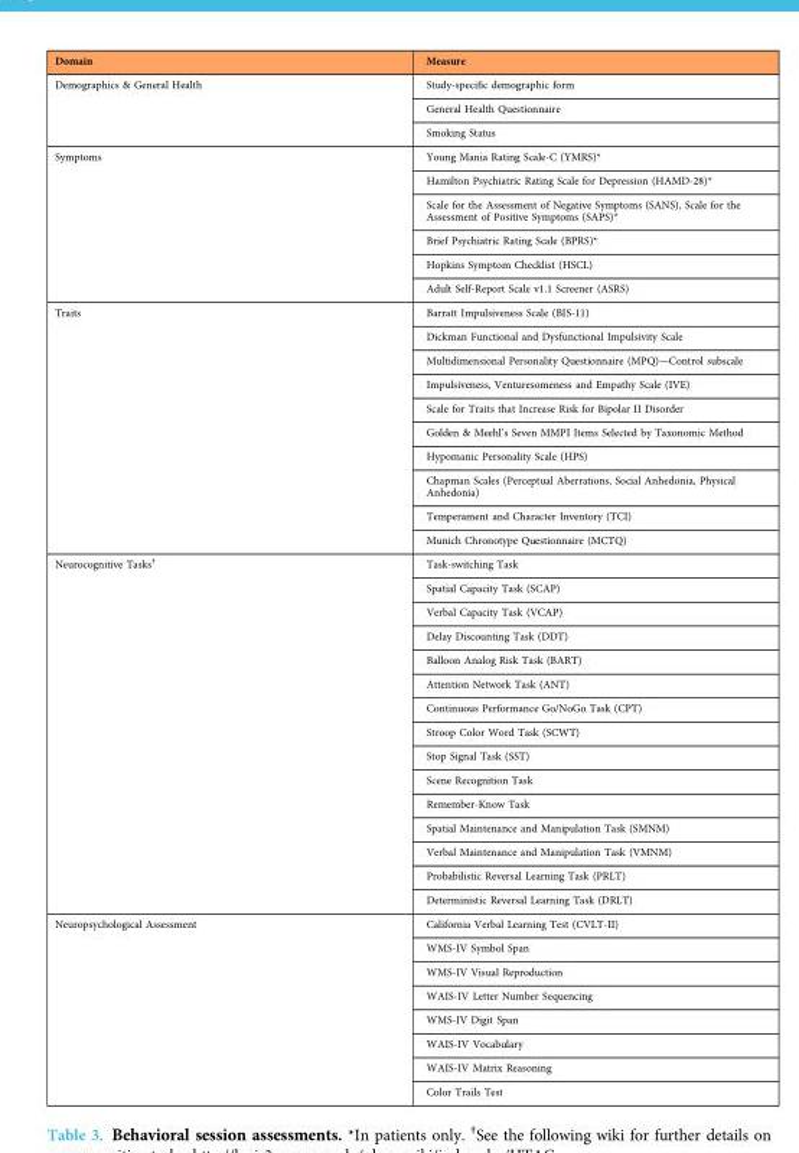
<table><thead><tr><td>Domain</td><td>Measure</td></tr></thead><tbody><tr><td rowspan="3">Demographics &amp; General Health</td><td>Study-specific demographic form</td></tr><tr><td>General Health Questionnaire</td></tr><tr><td>Smoking Status</td></tr><tr><td rowspan="6">Symptoms</td><td>Young Mania Rating Scale-C (YMRS)*</td></tr><tr><td>Hamilton Psychiatric Rating Scale for Depression (HAMD-28)*</td></tr><tr><td>Scale for the Assessment of Negative Symptoms (SANS), Scale for the Assessment of Positive Symptoms (SAPS)*</td></tr><tr><td>Brief Psychiatric Rating Scale (BPRS)*</td></tr><tr><td>Hopkins Symptom Checklist (HSCL)</td></tr><tr><td>Adult Self-Report Scale v1.1 Screener (ASRS)</td></tr><tr><td rowspan="10">Traits</td><td>Barratt Impulsiveness Scale (BIS-11)</td></tr><tr><td>Dickman Functional and Dysfunctional Impulsivity Scale</td></tr><tr><td>Multidimensional Personality Questionnaire (MPQ)—Control subscale</td></tr><tr><td>Impulsiveness, Venturesomeness and Empathy Scale (IVE)</td></tr><tr><td>Scale for Traits that Increase Risk for Bipolar II Disorder</td></tr><tr><td>Golden &amp; Meehl’s Seven MMPI Items Selected by Taxonomic Method</td></tr><tr><td>Hypomanic Personality Scale (HPS)</td></tr><tr><td>Chapman Scales (Perceptual Aberrations, Social Anhedonia, Physical Anhedonia)</td></tr><tr><td>Temperament and Character Inventory (TCI)</td></tr><tr><td>Munich Chronotype Questionnaire (MCTQ)</td></tr><tr><td rowspan="15">Neurocognitive Tasks†</td><td>Task-switching Task</td></tr><tr><td>Spatial Capacity Task (SCAP)</td></tr><tr><td>Verbal Capacity Task (VCAP)</td></tr><tr><td>Delay Discounting Task (DDT)</td></tr><tr><td>Balloon Analog Risk Task (BART)</td></tr><tr><td>Attention Network Task (ANT)</td></tr><tr><td>Continuous Performance Go/NoGo Task (CPT)</td></tr><tr><td>Stroop Color Word Task (SCWT)</td></tr><tr><td>Stop Signal Task (SST)</td></tr><tr><td>Scene Recognition Task</td></tr><tr><td>Remember-Know Task</td></tr><tr><td>Spatial Maintenance and Manipulation Task (SMNM)</td></tr><tr><td>Verbal Maintenance and Manipulation Task (VMNM)</td></tr><tr><td>Probabilistic Reversal Learning Task (PRLT)</td></tr><tr><td>Deterministic Reversal Learning Task (DRLT)</td></tr><tr><td rowspan="8">Neuropsychological Assessment</td><td>California Verbal Learning Test (CVLT-II)</td></tr><tr><td>WMS-IV Symbol Span</td></tr><tr><td>WMS-IV Visual Reproduction</td></tr><tr><td>WAIS-IV Letter Number Sequencing</td></tr><tr><td>WMS-IV Digit Span</td></tr><tr><td>WAIS-IV Vocabulary</td></tr><tr><td>WAIS-IV Matrix Reasoning</td></tr><tr><td>Color Trails Test</td></tr></tbody></table>